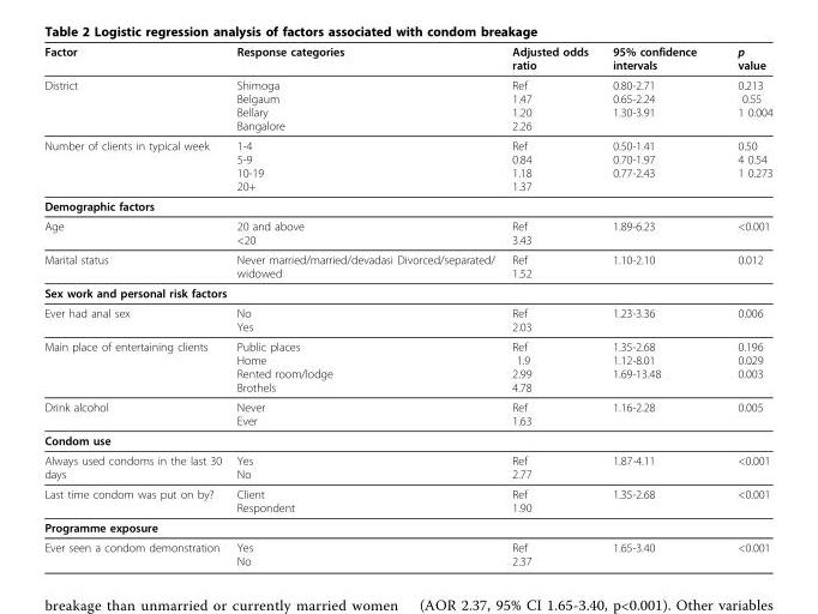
<table><thead><tr><td>Factor</td><td>Response categories</td><td>Adjusted odds ratio</td><td>95% confidence intervals</td><td>p value</td></tr></thead><tbody><tr><td>District</td><td>Shimoga Belgaum Bellary Bangalore</td><td>Ref 1.47 1.20 2.26</td><td>0.80-2.71 0.65-2.24 1.30-3.91</td><td>0.213 0.55 1 0.004</td></tr><tr><td>Number of clients in typical week</td><td>1-4 5-9 10-19 20+</td><td>Ref 0.84 1.18 1.37</td><td>0.50-1.41 0.70-1.97 0.77-2.43</td><td>0.50 4 0.54 1 0.273</td></tr><tr><td colspan="5">Demographic factors</td></tr><tr><td>Age</td><td>20 and above &lt;20</td><td>Ref 3.43</td><td>1.89-6.23</td><td>&lt;0.001</td></tr><tr><td>Marital status</td><td>Never married/married/devadasi Divorced/separated/ widowed</td><td>Ref 1.52</td><td>1.10-2.10</td><td>0.012</td></tr><tr><td colspan="5">Sex work and personal risk factors</td></tr><tr><td>Ever had anal sex</td><td>No Yes</td><td>Ref 2.03</td><td>1.23-3.36</td><td>0.006</td></tr><tr><td>Main place of entertaining clients</td><td>Public places Home Rented room/lodge Brothels</td><td>Ref 1.9 2.99 4.78</td><td>1.35-2.68 1.12-8.01 1.69-13.48</td><td>0.196 0.029 0.003</td></tr><tr><td>Drink alcohol</td><td>Never Ever</td><td>Ref 1.63</td><td>1.16-2.28</td><td>0.005</td></tr><tr><td colspan="5">Condom use</td></tr><tr><td>Always used condoms in the last 30 days</td><td>Yes No</td><td>Ref 2.77</td><td>1.87-4.11</td><td>&lt;0.001</td></tr><tr><td>Last time condom was put on by?</td><td>Client Respondent</td><td>Ref 1.90</td><td>1.35-2.68</td><td>&lt;0.001</td></tr><tr><td colspan="5">Programme exposure</td></tr><tr><td>Ever seen a condom demonstration</td><td>Yes No</td><td>Ref 2.37</td><td>1.65-3.40</td><td>&lt;0.001</td></tr></tbody></table>